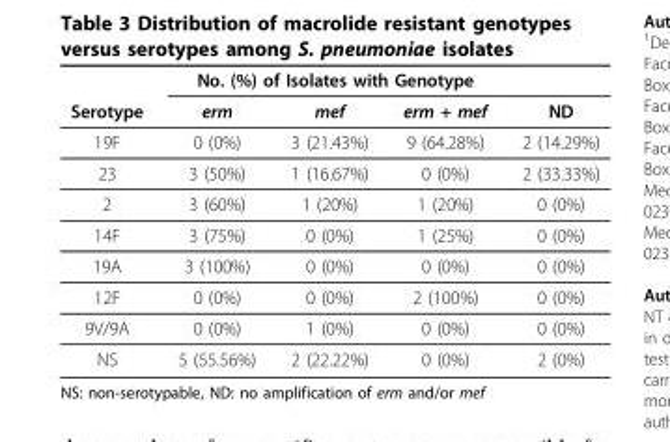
<table><thead><tr><td colspan="5">No. (%) of Isolates with Genotype</td></tr><tr><td>Serotype</td><td>erm</td><td>mef</td><td>erm + mef</td><td>ND</td></tr></thead><tbody><tr><td>19F</td><td>0 (0%)</td><td>3 (21.43%)</td><td>9 (64.28%)</td><td>2 (14.29%)</td></tr><tr><td>23</td><td>3 (50%)</td><td>1 (16.67%)</td><td>0 (0%)</td><td>2 (33.33%)</td></tr><tr><td>2</td><td>3 (60%)</td><td>1 (20%)</td><td>1 (20%)</td><td>0 (0%)</td></tr><tr><td>14F</td><td>3 (75%)</td><td>0 (0%)</td><td>1 (25%)</td><td>0 (0%)</td></tr><tr><td>19A</td><td>3 (100%)</td><td>0 (0%)</td><td>0 (0%)</td><td>0 (0%)</td></tr><tr><td>12F</td><td>0 (0%)</td><td>0 (0%)</td><td>2 (100%)</td><td>0 (0%)</td></tr><tr><td>9V/9A</td><td>0 (0%)</td><td>1 (0%)</td><td>0 (0%)</td><td>0 (0%)</td></tr><tr><td>NS</td><td>5 (55.56%)</td><td>2 (22.22%)</td><td>0 (0%)</td><td>2 (0%)</td></tr></tbody></table>